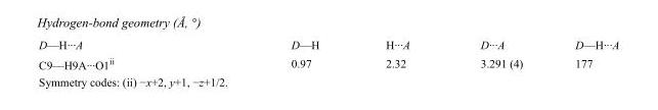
<table><tbody><tr><td>D—H···A</td><td>D—H</td><td>H···A</td><td>D···A</td><td>D—H···A</td></tr><tr><td>C9—H9A···O1<sup>ii</sup></td><td>0.97</td><td>2.32</td><td>3.291 (4)</td><td>177</td></tr></tbody></table>